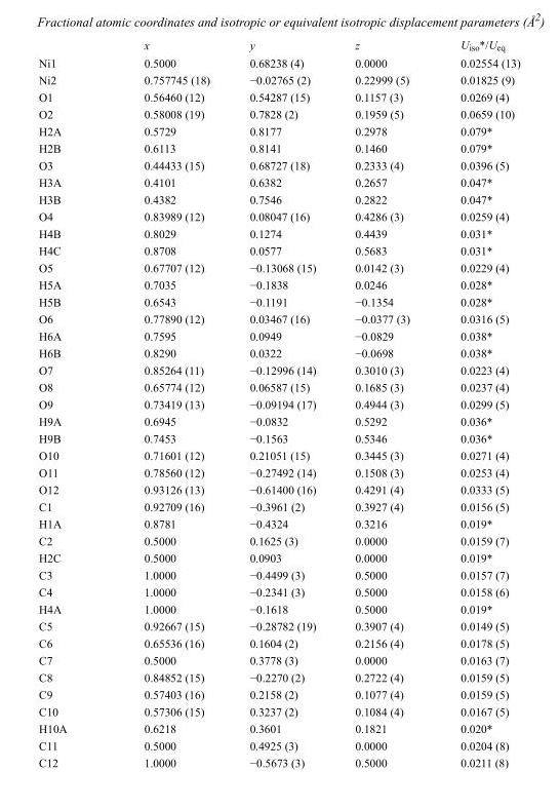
<table><thead><tr><td></td><td>x</td><td>y</td><td>z</td><td>U<sub>iso</sub>*/U<sub>eq</sub></td></tr></thead><tbody><tr><td>Ni1</td><td>0.5000</td><td>0.68238 (4)</td><td>0.0000</td><td>0.02554 (13)</td></tr><tr><td>Ni2</td><td>0.757745 (18)</td><td>−0.02765 (2)</td><td>0.22999 (5)</td><td>0.01825 (9)</td></tr><tr><td>O1</td><td>0.56460 (12)</td><td>0.54287 (15)</td><td>0.1157 (3)</td><td>0.0269 (4)</td></tr><tr><td>O2</td><td>0.58008 (19)</td><td>0.7828 (2)</td><td>0.1959 (5)</td><td>0.0659 (10)</td></tr><tr><td>H2A</td><td>0.5729</td><td>0.8177</td><td>0.2978</td><td>0.079*</td></tr><tr><td>H2B</td><td>0.6113</td><td>0.8141</td><td>0.1460</td><td>0.079*</td></tr><tr><td>O3</td><td>0.44433 (15)</td><td>0.68727 (18)</td><td>0.2333 (4)</td><td>0.0396 (5)</td></tr><tr><td>H3A</td><td>0.4101</td><td>0.6382</td><td>0.2657</td><td>0.047*</td></tr><tr><td>H3B</td><td>0.4382</td><td>0.7546</td><td>0.2822</td><td>0.047*</td></tr><tr><td>O4</td><td>0.83989 (12)</td><td>0.08047 (16)</td><td>0.4286 (3)</td><td>0.0259 (4)</td></tr><tr><td>H4B</td><td>0.8029</td><td>0.1274</td><td>0.4439</td><td>0.031*</td></tr><tr><td>H4C</td><td>0.8708</td><td>0.0577</td><td>0.5683</td><td>0.031*</td></tr><tr><td>O5</td><td>0.67707 (12)</td><td>−0.13068 (15)</td><td>0.0142 (3)</td><td>0.0229 (4)</td></tr><tr><td>H5A</td><td>0.7035</td><td>−0.1838</td><td>0.0246</td><td>0.028*</td></tr><tr><td>H5B</td><td>0.6543</td><td>−0.1191</td><td>−0.1354</td><td>0.028*</td></tr><tr><td>O6</td><td>0.77890 (12)</td><td>0.03467 (16)</td><td>−0.0377 (3)</td><td>0.0316 (5)</td></tr><tr><td>H6A</td><td>0.7595</td><td>0.0949</td><td>−0.0829</td><td>0.038*</td></tr><tr><td>H6B</td><td>0.8290</td><td>0.0322</td><td>−0.0698</td><td>0.038*</td></tr><tr><td>O7</td><td>0.85264 (11)</td><td>−0.12996 (14)</td><td>0.3010 (3)</td><td>0.0223 (4)</td></tr><tr><td>O8</td><td>0.65774 (12)</td><td>0.06587 (15)</td><td>0.1685 (3)</td><td>0.0237 (4)</td></tr><tr><td>O9</td><td>0.73419 (13)</td><td>−0.09194 (17)</td><td>0.4944 (3)</td><td>0.0299 (5)</td></tr><tr><td>H9A</td><td>0.6945</td><td>−0.0832</td><td>0.5292</td><td>0.036*</td></tr><tr><td>H9B</td><td>0.7453</td><td>−0.1563</td><td>0.5346</td><td>0.036*</td></tr><tr><td>O10</td><td>0.71601 (12)</td><td>0.21051 (15)</td><td>0.3445 (3)</td><td>0.0271 (4)</td></tr><tr><td>O11</td><td>0.78560 (12)</td><td>−0.27492 (14)</td><td>0.1508 (3)</td><td>0.0253 (4)</td></tr><tr><td>O12</td><td>0.93126 (13)</td><td>−0.61400 (16)</td><td>0.4291 (4)</td><td>0.0333 (5)</td></tr><tr><td>C1</td><td>0.92709 (16)</td><td>−0.3961 (2)</td><td>0.3927 (4)</td><td>0.0156 (5)</td></tr><tr><td>H1A</td><td>0.8781</td><td>−0.4324</td><td>0.3216</td><td>0.019*</td></tr><tr><td>C2</td><td>0.5000</td><td>0.1625 (3)</td><td>0.0000</td><td>0.0159 (7)</td></tr><tr><td>H2C</td><td>0.5000</td><td>0.0903</td><td>0.0000</td><td>0.019*</td></tr><tr><td>C3</td><td>1.0000</td><td>−0.4499 (3)</td><td>0.5000</td><td>0.0157 (7)</td></tr><tr><td>C4</td><td>1.0000</td><td>−0.2341 (3)</td><td>0.5000</td><td>0.0158 (6)</td></tr><tr><td>H4A</td><td>1.0000</td><td>−0.1618</td><td>0.5000</td><td>0.019*</td></tr><tr><td>C5</td><td>0.92667 (15)</td><td>−0.28782 (19)</td><td>0.3907 (4)</td><td>0.0149 (5)</td></tr><tr><td>C6</td><td>0.65536 (16)</td><td>0.1604 (2)</td><td>0.2156 (4)</td><td>0.0178 (5)</td></tr><tr><td>C7</td><td>0.5000</td><td>0.3778 (3)</td><td>0.0000</td><td>0.0163 (7)</td></tr><tr><td>C8</td><td>0.84852 (15)</td><td>−0.2270 (2)</td><td>0.2722 (4)</td><td>0.0159 (5)</td></tr><tr><td>C9</td><td>0.57403 (16)</td><td>0.2158 (2)</td><td>0.1077 (4)</td><td>0.0159 (5)</td></tr><tr><td>C10</td><td>0.57306 (15)</td><td>0.3237 (2)</td><td>0.1084 (4)</td><td>0.0167 (5)</td></tr><tr><td>H10A</td><td>0.6218</td><td>0.3601</td><td>0.1821</td><td>0.020*</td></tr><tr><td>C11</td><td>0.5000</td><td>0.4925 (3)</td><td>0.0000</td><td>0.0204 (8)</td></tr><tr><td>C12</td><td>1.0000</td><td>−0.5673 (3)</td><td>0.5000</td><td>0.0211 (8)</td></tr></tbody></table>